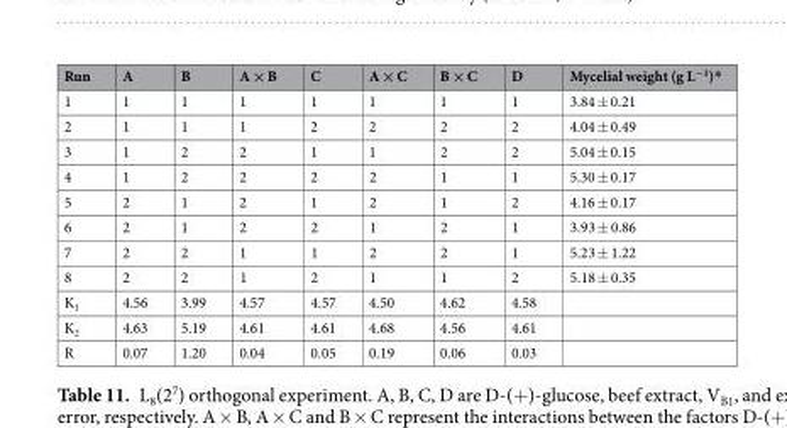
<table><thead><tr><td>Run</td><td>A</td><td>B</td><td>A × B</td><td>C</td><td>A × C</td><td>B × C</td><td>D</td><td>Mycelial weight (g L<sup>−1</sup>)*</td></tr></thead><tbody><tr><td>1</td><td>1</td><td>1</td><td>1</td><td>1</td><td>1</td><td>1</td><td>1</td><td>3.84 ± 0.21</td></tr><tr><td>2</td><td>1</td><td>1</td><td>1</td><td>2</td><td>2</td><td>2</td><td>2</td><td>4.04 ± 0.49</td></tr><tr><td>3</td><td>1</td><td>2</td><td>2</td><td>1</td><td>1</td><td>2</td><td>2</td><td>5.04 ± 0.15</td></tr><tr><td>4</td><td>1</td><td>2</td><td>2</td><td>2</td><td>2</td><td>1</td><td>1</td><td>5.30 ± 0.17</td></tr><tr><td>5</td><td>2</td><td>1</td><td>2</td><td>1</td><td>2</td><td>1</td><td>2</td><td>4.16 ± 0.17</td></tr><tr><td>6</td><td>2</td><td>1</td><td>2</td><td>2</td><td>1</td><td>2</td><td>1</td><td>3.93 ± 0.86</td></tr><tr><td>7</td><td>2</td><td>2</td><td>1</td><td>1</td><td>2</td><td>2</td><td>1</td><td>5.23 ± 1.22</td></tr><tr><td>8</td><td>2</td><td>2</td><td>1</td><td>2</td><td>1</td><td>1</td><td>2</td><td>5.18 ± 0.35</td></tr><tr><td>K<sub>1</sub></td><td>4.56</td><td>3.99</td><td>4.57</td><td>4.57</td><td>4.50</td><td>4.62</td><td>4.58</td><td></td></tr><tr><td>K<sub>2</sub></td><td>4.63</td><td>5.19</td><td>4.61</td><td>4.61</td><td>4.68</td><td>4.56</td><td>4.61</td><td></td></tr><tr><td>R</td><td>0.07</td><td>1.20</td><td>0.04</td><td>0.05</td><td>0.19</td><td>0.06</td><td>0.03</td><td></td></tr></tbody></table>